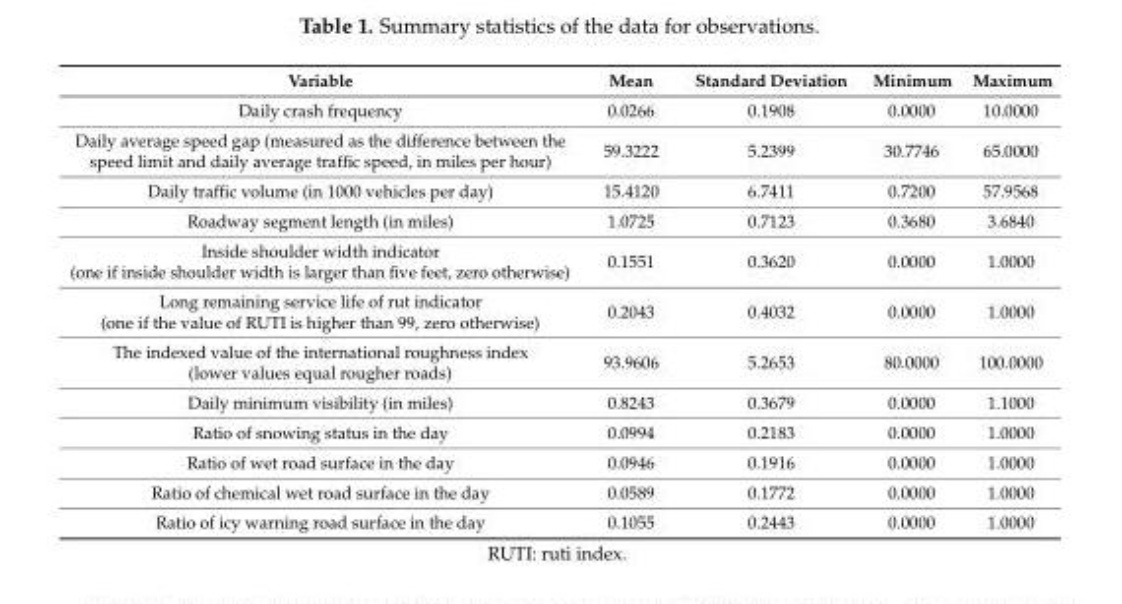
<table><thead><tr><td>Variable</td><td>Mean</td><td>Standard Deviation</td><td>Minimum</td><td>Maximum</td></tr></thead><tbody><tr><td>Daily crash frequency</td><td>0.0266</td><td>0.1908</td><td>0.0000</td><td>10.0000</td></tr><tr><td>Daily average speed gap (measured as the difference between the speed limit and daily average traffic speed, in miles per hour)</td><td>59.3222</td><td>5.2399</td><td>30.7746</td><td>65.0000</td></tr><tr><td>Daily traffic volume (in 1000 vehicles per day)</td><td>15.4120</td><td>6.7411</td><td>0.7200</td><td>57.9568</td></tr><tr><td>Roadway segment length (in miles)</td><td>1.0725</td><td>0.7123</td><td>0.3680</td><td>3.6840</td></tr><tr><td>Inside shoulder width indicator (one if inside shoulder width is larger than five feet, zero otherwise)</td><td>0.1551</td><td>0.3620</td><td>0.0000</td><td>1.0000</td></tr><tr><td>Long remaining service life of rut indicator (one if the value of RUTI is higher than 99, zero otherwise)</td><td>0.2043</td><td>0.4032</td><td>0.0000</td><td>1.0000</td></tr><tr><td>The indexed value of the international roughness index (lower values equal rougher roads)</td><td>93.9606</td><td>5.2653</td><td>80.0000</td><td>100.0000</td></tr><tr><td>Daily minimum visibility (in miles)</td><td>0.8243</td><td>0.3679</td><td>0.0000</td><td>1.1000</td></tr><tr><td>Ratio of snowing status in the day</td><td>0.0994</td><td>0.2183</td><td>0.0000</td><td>1.0000</td></tr><tr><td>Ratio of wet road surface in the day</td><td>0.0946</td><td>0.1916</td><td>0.0000</td><td>1.0000</td></tr><tr><td>Ratio of chemical wet road surface in the day</td><td>0.0589</td><td>0.1772</td><td>0.0000</td><td>1.0000</td></tr><tr><td>Ratio of icy warning road surface in the day</td><td>0.1055</td><td>0.2443</td><td>0.0000</td><td>1.0000</td></tr></tbody></table>